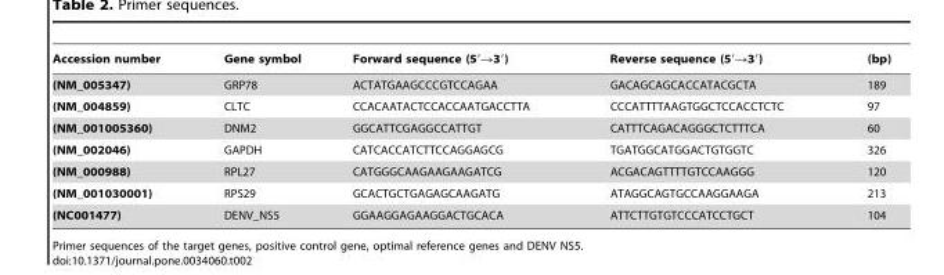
<table><thead><tr><td>Accession number</td><td>Gene symbol</td><td>Forward sequence (5′→3′)</td><td>Reverse sequence (5′→3′)</td><td>(bp)</td></tr></thead><tbody><tr><td>(NM_005347)</td><td>GRP78</td><td>ACTATGAAGCCCGTCCAGAA</td><td>GACAGCAGCACCATACGCTA</td><td>189</td></tr><tr><td>(NM_004859)</td><td>CLTC</td><td>CCACAATACTCCACCAATGACCTTA</td><td>CCCATTTTAAGTGGCTCCACCTCTC</td><td>97</td></tr><tr><td>(NM_001005360)</td><td>DNM2</td><td>GGCATTCGAGGCCATTGT</td><td>CATTTCAGACAGGGCTCTTTCA</td><td>60</td></tr><tr><td>(NM_002046)</td><td>GAPDH</td><td>CATCACCATCTTCCAGGAGCG</td><td>TGATGGCATGGACTGTGGTC</td><td>326</td></tr><tr><td>(NM_000988)</td><td>RPL27</td><td>CATGGGCAAGAAGAAGATCG</td><td>ACGACAGTTTTGTCCAAGGG</td><td>120</td></tr><tr><td>(NM_001030001)</td><td>RPS29</td><td>GCACTGCTGAGAGCAAGATG</td><td>ATAGGCAGTGCCAAGGAAGA</td><td>213</td></tr><tr><td>(NC001477)</td><td>DENV_NS5</td><td>GGAAGGAGAAGGACTGCACA</td><td>ATTCTTGTGTCCCATCCTGCT</td><td>104</td></tr></tbody></table>